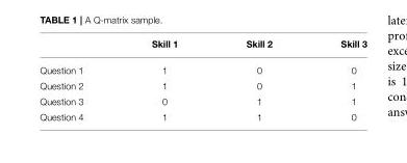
<table><thead><tr><td></td><td>Skill 1</td><td>Skill 2</td><td>Skill 3</td></tr></thead><tbody><tr><td>Question 1</td><td>1</td><td>0</td><td>0</td></tr><tr><td>Question 2</td><td>1</td><td>0</td><td>1</td></tr><tr><td>Question 3</td><td>0</td><td>1</td><td>1</td></tr><tr><td>Question 4</td><td>1</td><td>1</td><td>0</td></tr></tbody></table>